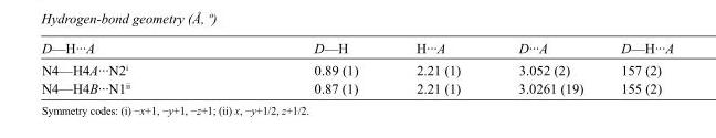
<table><tbody><tr><td>D—H···A</td><td>D—H</td><td>H···A</td><td>D···A</td><td>D—H···A</td></tr><tr><td>N4—H4A···N2<sup>i</sup></td><td>0.89 (1)</td><td>2.21 (1)</td><td>3.052 (2)</td><td>157 (2)</td></tr><tr><td>N4—H4B···N1<sup>ii</sup></td><td>0.87 (1)</td><td>2.21 (1)</td><td>3.0261 (19)</td><td>155 (2)</td></tr></tbody></table>